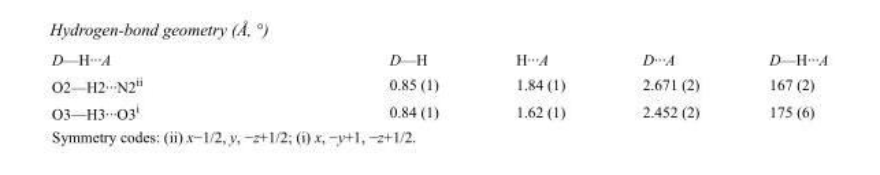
<table><tbody><tr><td>D—H···A</td><td>D—H</td><td>H···A</td><td>D···A</td><td>D—H···A</td></tr><tr><td>O2—H2···N2<sup>ii</sup></td><td>0.85 (1)</td><td>1.84 (1)</td><td>2.671 (2)</td><td>167 (2)</td></tr><tr><td>O3—H3···O3<sup>i</sup></td><td>0.84 (1)</td><td>1.62 (1)</td><td>2.452 (2)</td><td>175 (6)</td></tr></tbody></table>